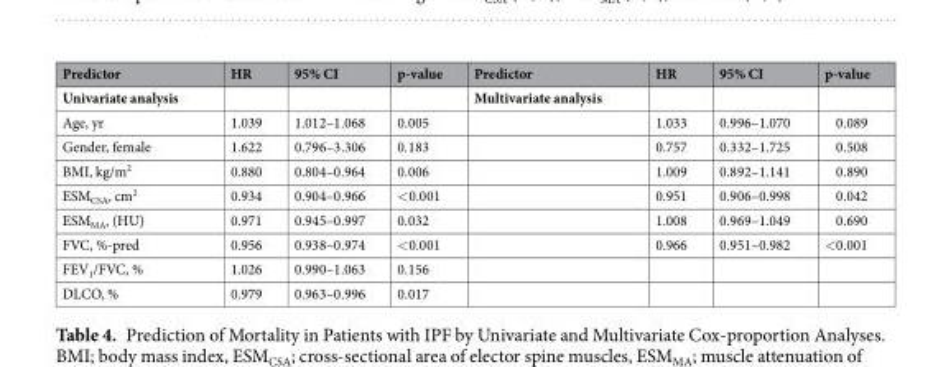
<table><thead><tr><td>Predictor</td><td>HR</td><td>95% CI</td><td>p-value</td><td>Predictor</td><td>HR</td><td>95% CI</td><td>p-value</td></tr></thead><tbody><tr><td>Univariate analysis</td><td></td><td></td><td></td><td>Multivariate analysis</td><td></td><td></td><td></td></tr><tr><td>Age, yr</td><td>1.039</td><td>1.012–1.068</td><td>0.005</td><td></td><td>1.033</td><td>0.996–1.070</td><td>0.089</td></tr><tr><td>Gender, female</td><td>1.622</td><td>0.796–3.306</td><td>0.183</td><td></td><td>0.757</td><td>0.332–1.725</td><td>0.508</td></tr><tr><td>BMI, kg/m<sup>2</sup></td><td>0.880</td><td>0.804–0.964</td><td>0.006</td><td></td><td>1.009</td><td>0.892–1.141</td><td>0.890</td></tr><tr><td>ESM<sub>CSA</sub>, cm<sup>2</sup></td><td>0.934</td><td>0.904–0.966</td><td>&lt;0.001</td><td></td><td>0.951</td><td>0.906–0.998</td><td>0.042</td></tr><tr><td>ESM<sub>MA</sub>, (HU)</td><td>0.971</td><td>0.945–0.997</td><td>0.032</td><td></td><td>1.008</td><td>0.969–1.049</td><td>0.690</td></tr><tr><td>FVC, %-pred</td><td>0.956</td><td>0.938–0.974</td><td>&lt;0.001</td><td></td><td>0.966</td><td>0.951–0.982</td><td>&lt;0.001</td></tr><tr><td>FEV<sub>1</sub>/FVC, %</td><td>1.026</td><td>0.990–1.063</td><td>0.156</td><td></td><td></td><td></td><td></td></tr><tr><td>DLCO, %</td><td>0.979</td><td>0.963–0.996</td><td>0.017</td><td></td><td></td><td></td><td></td></tr></tbody></table>